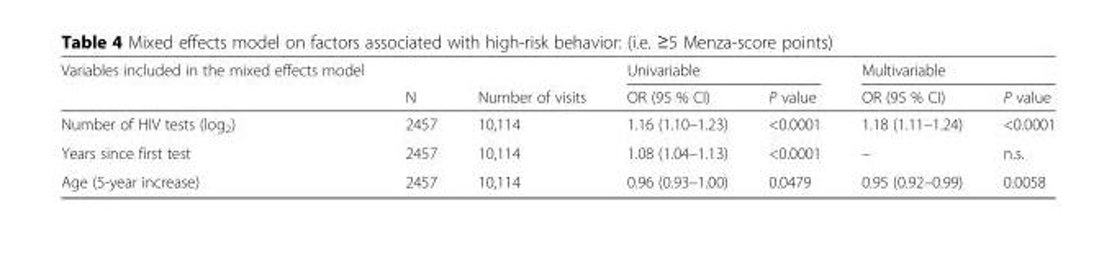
<table><thead><tr><td rowspan="2">Variables included in the mixed effects model</td><td rowspan="2">N</td><td rowspan="2">Number of visits</td><td colspan="2">Univariable</td><td colspan="2">Multivariable</td></tr><tr><td>OR (95 % CI)</td><td>P value</td><td>OR (95 % CI)</td><td>P value</td></tr></thead><tbody><tr><td>Number of HIV tests (log<sub>2</sub>)</td><td>2457</td><td>10,114</td><td>1.16 (1.10–1.23)</td><td>&lt;0.0001</td><td>1.18 (1.11–1.24)</td><td>&lt;0.0001</td></tr><tr><td>Years since first test</td><td>2457</td><td>10,114</td><td>1.08 (1.04–1.13)</td><td>&lt;0.0001</td><td>–</td><td>n.s.</td></tr><tr><td>Age (5-year increase)</td><td>2457</td><td>10,114</td><td>0.96 (0.93–1.00)</td><td>0.0479</td><td>0.95 (0.92–0.99)</td><td>0.0058</td></tr></tbody></table>